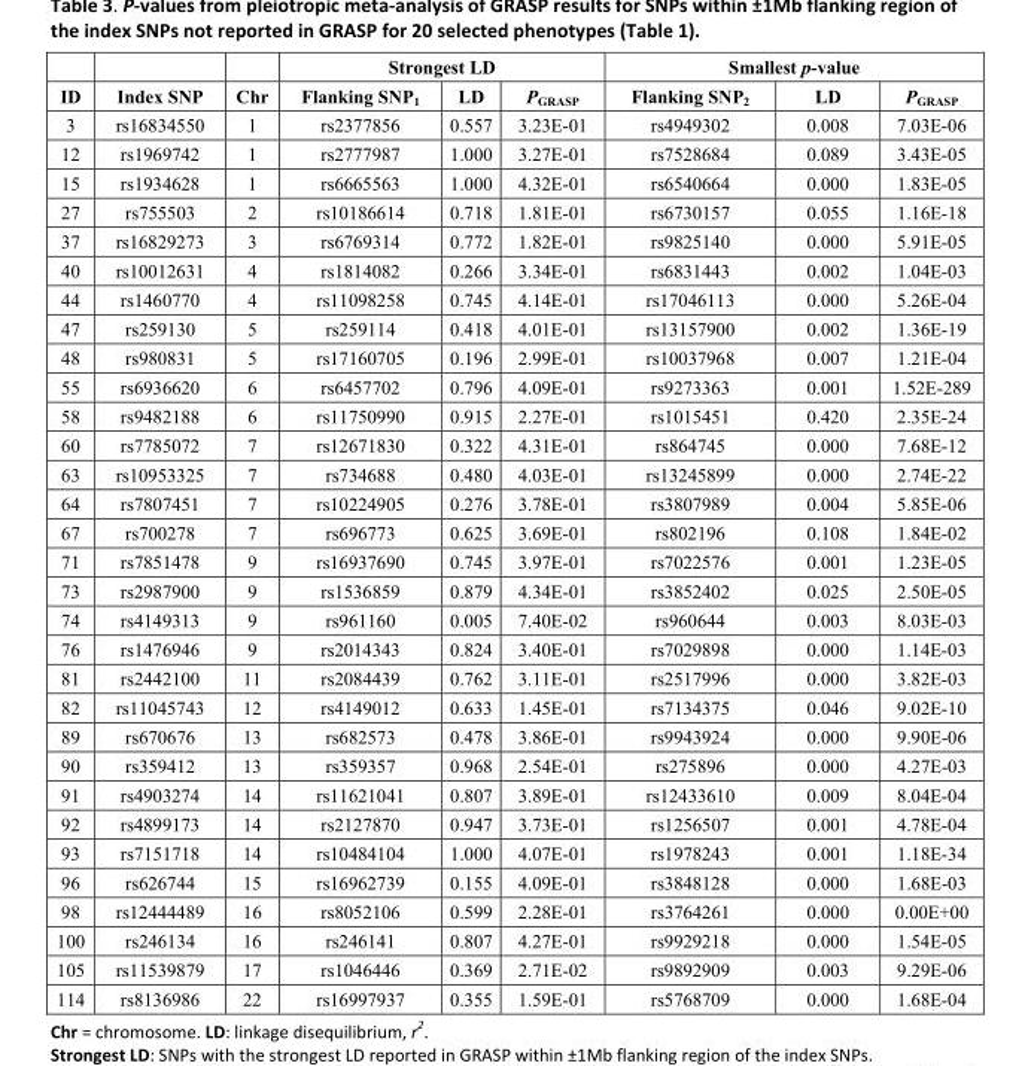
<table><thead><tr><td rowspan="2">ID</td><td rowspan="2">Index SNP</td><td rowspan="2">Chr</td><td colspan="3">Strongest LD</td><td colspan="3">Smallest p-value</td></tr><tr><td>Flanking SNP<sub>1</sub></td><td>LD</td><td>P<sub>GRASP</sub></td><td>Flanking SNP<sub>2</sub></td><td>LD</td><td>P<sub>GRASP</sub></td></tr></thead><tbody><tr><td>3</td><td>rs16834550</td><td>1</td><td>rs2377856</td><td>0.557</td><td>3.23E-01</td><td>rs4949302</td><td>0.008</td><td>7.03E-06</td></tr><tr><td>12</td><td>rs1969742</td><td>1</td><td>rs2777987</td><td>1.000</td><td>3.27E-01</td><td>rs7528684</td><td>0.089</td><td>3.43E-05</td></tr><tr><td>15</td><td>rs1934628</td><td>1</td><td>rs6665563</td><td>1.000</td><td>4.32E-01</td><td>rs6540664</td><td>0.000</td><td>1.83E-05</td></tr><tr><td>27</td><td>rs755503</td><td>2</td><td>rs10186614</td><td>0.718</td><td>1.81E-01</td><td>rs6730157</td><td>0.055</td><td>1.16E-18</td></tr><tr><td>37</td><td>rs16829273</td><td>3</td><td>rs6769314</td><td>0.772</td><td>1.82E-01</td><td>rs9825140</td><td>0.000</td><td>5.91E-05</td></tr><tr><td>40</td><td>rs10012631</td><td>4</td><td>rs1814082</td><td>0.266</td><td>3.34E-01</td><td>rs6831443</td><td>0.002</td><td>1.04E-03</td></tr><tr><td>44</td><td>rs1460770</td><td>4</td><td>rs11098258</td><td>0.745</td><td>4.14E-01</td><td>rs17046113</td><td>0.000</td><td>5.26E-04</td></tr><tr><td>47</td><td>rs259130</td><td>5</td><td>rs259114</td><td>0.418</td><td>4.01E-01</td><td>rs13157900</td><td>0.002</td><td>1.36E-19</td></tr><tr><td>48</td><td>rs980831</td><td>5</td><td>rs17160705</td><td>0.196</td><td>2.99E-01</td><td>rs10037968</td><td>0.007</td><td>1.21E-04</td></tr><tr><td>55</td><td>rs6936620</td><td>6</td><td>rs6457702</td><td>0.796</td><td>4.09E-01</td><td>rs9273363</td><td>0.001</td><td>1.52E-289</td></tr><tr><td>58</td><td>rs9482188</td><td>6</td><td>rs11750990</td><td>0.915</td><td>2.27E-01</td><td>rs1015451</td><td>0.420</td><td>2.35E-24</td></tr><tr><td>60</td><td>rs7785072</td><td>7</td><td>rs12671830</td><td>0.322</td><td>4.31E-01</td><td>rs864745</td><td>0.000</td><td>7.68E-12</td></tr><tr><td>63</td><td>rs10953325</td><td>7</td><td>rs734688</td><td>0.480</td><td>4.03E-01</td><td>rs13245899</td><td>0.000</td><td>2.74E-22</td></tr><tr><td>64</td><td>rs7807451</td><td>7</td><td>rs10224905</td><td>0.276</td><td>3.78E-01</td><td>rs3807989</td><td>0.004</td><td>5.85E-06</td></tr><tr><td>67</td><td>rs700278</td><td>7</td><td>rs696773</td><td>0.625</td><td>3.69E-01</td><td>rs802196</td><td>0.108</td><td>1.84E-02</td></tr><tr><td>71</td><td>rs7851478</td><td>9</td><td>rs16937690</td><td>0.745</td><td>3.97E-01</td><td>rs7022576</td><td>0.001</td><td>1.23E-05</td></tr><tr><td>73</td><td>rs2987900</td><td>9</td><td>rs1536859</td><td>0.879</td><td>4.34E-01</td><td>rs3852402</td><td>0.025</td><td>2.50E-05</td></tr><tr><td>74</td><td>rs4149313</td><td>9</td><td>rs961160</td><td>0.005</td><td>7.40E-02</td><td>rs960644</td><td>0.003</td><td>8.03E-03</td></tr><tr><td>76</td><td>rs1476946</td><td>9</td><td>rs2014343</td><td>0.824</td><td>3.40E-01</td><td>rs7029898</td><td>0.000</td><td>1.14E-03</td></tr><tr><td>81</td><td>rs2442100</td><td>11</td><td>rs2084439</td><td>0.762</td><td>3.11E-01</td><td>rs2517996</td><td>0.000</td><td>3.82E-03</td></tr><tr><td>82</td><td>rs11045743</td><td>12</td><td>rs4149012</td><td>0.633</td><td>1.45E-01</td><td>rs7134375</td><td>0.046</td><td>9.02E-10</td></tr><tr><td>89</td><td>rs670676</td><td>13</td><td>rs682573</td><td>0.478</td><td>3.86E-01</td><td>rs9943924</td><td>0.000</td><td>9.90E-06</td></tr><tr><td>90</td><td>rs359412</td><td>13</td><td>rs359357</td><td>0.968</td><td>2.54E-01</td><td>rs275896</td><td>0.000</td><td>4.27E-03</td></tr><tr><td>91</td><td>rs4903274</td><td>14</td><td>rs11621041</td><td>0.807</td><td>3.89E-01</td><td>rs12433610</td><td>0.009</td><td>8.04E-04</td></tr><tr><td>92</td><td>rs4899173</td><td>14</td><td>rs2127870</td><td>0.947</td><td>3.73E-01</td><td>rs1256507</td><td>0.001</td><td>4.78E-04</td></tr><tr><td>93</td><td>rs7151718</td><td>14</td><td>rs10484104</td><td>1.000</td><td>4.07E-01</td><td>rs1978243</td><td>0.001</td><td>1.18E-34</td></tr><tr><td>96</td><td>rs626744</td><td>15</td><td>rs16962739</td><td>0.155</td><td>4.09E-01</td><td>rs3848128</td><td>0.000</td><td>1.68E-03</td></tr><tr><td>98</td><td>rs12444489</td><td>16</td><td>rs8052106</td><td>0.599</td><td>2.28E-01</td><td>rs3764261</td><td>0.000</td><td>0.00E+00</td></tr><tr><td>100</td><td>rs246134</td><td>16</td><td>rs246141</td><td>0.807</td><td>4.27E-01</td><td>rs9929218</td><td>0.000</td><td>1.54E-05</td></tr><tr><td>105</td><td>rs11539879</td><td>17</td><td>rs1046446</td><td>0.369</td><td>2.71E-02</td><td>rs9892909</td><td>0.003</td><td>9.29E-06</td></tr><tr><td>114</td><td>rs8136986</td><td>22</td><td>rs16997937</td><td>0.355</td><td>1.59E-01</td><td>rs5768709</td><td>0.000</td><td>1.68E-04</td></tr></tbody></table>